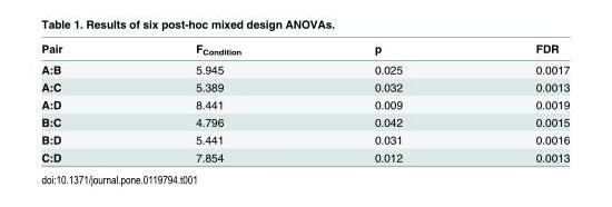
<table><thead><tr><td>Pair</td><td>F<sub>Condition</sub></td><td>p</td><td>FDR</td></tr></thead><tbody><tr><td>A:B</td><td>5.945</td><td>0.025</td><td>0.0017</td></tr><tr><td>A:C</td><td>5.389</td><td>0.032</td><td>0.0013</td></tr><tr><td>A:D</td><td>8.441</td><td>0.009</td><td>0.0019</td></tr><tr><td>B:C</td><td>4.796</td><td>0.042</td><td>0.0015</td></tr><tr><td>B:D</td><td>5.441</td><td>0.031</td><td>0.0016</td></tr><tr><td>C:D</td><td>7.854</td><td>0.012</td><td>0.0013</td></tr></tbody></table>